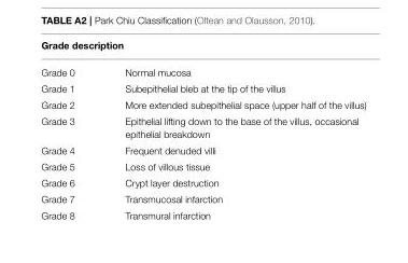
<table><thead><tr><td>Grade description</td><td></td></tr></thead><tbody><tr><td>Grade 0</td><td>Normal mucosa</td></tr><tr><td>Grade 1</td><td>Subepithelial bleb at the tip of the villus</td></tr><tr><td>Grade 2</td><td>More extended subepithelial space (upper half of the villus)</td></tr><tr><td>Grade 3</td><td>Epithelial lifting down to the base of the villus, occasional epithelial breakdown</td></tr><tr><td>Grade 4</td><td>Frequent denuded villi</td></tr><tr><td>Grade 5</td><td>Loss of villous tissue</td></tr><tr><td>Grade 6</td><td>Crypt layer destruction</td></tr><tr><td>Grade 7</td><td>Transmucosal infarction</td></tr><tr><td>Grade 8</td><td>Transmural infarction</td></tr></tbody></table>